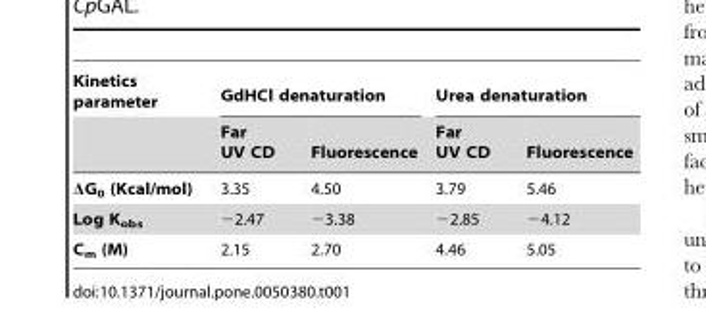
<table><thead><tr><td rowspan="2">Kinetics parameter</td><td colspan="2">GdHCl denaturation</td><td colspan="2">Urea denaturation</td></tr><tr><td>Far UV CD</td><td>Fluorescence</td><td>Far UV CD</td><td>Fluorescence</td></tr></thead><tbody><tr><td>ΔG<sub>0</sub> (Kcal/mol)</td><td>3.35</td><td>4.50</td><td>3.79</td><td>5.46</td></tr><tr><td>Log K<sub>obs</sub></td><td>−2.47</td><td>−3.38</td><td>−2.85</td><td>−4.12</td></tr><tr><td>C<sub>m</sub> (M)</td><td>2.15</td><td>2.70</td><td>4.46</td><td>5.05</td></tr></tbody></table>